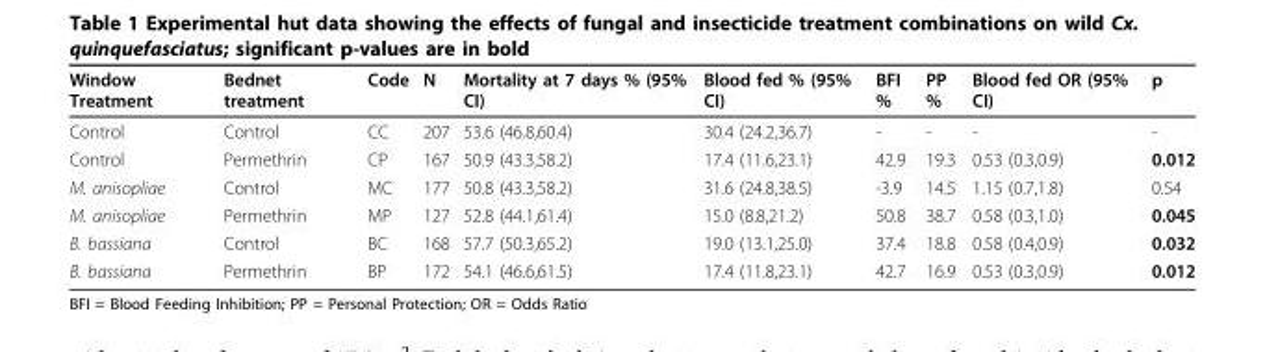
<table><thead><tr><td>Window Treatment</td><td>Bednet treatment</td><td>Code</td><td>N</td><td>Mortality at 7 days % (95% CI)</td><td>Blood fed % (95% CI)</td><td>BFI %</td><td>PP %</td><td>Blood fed OR (95% CI)</td><td>p</td></tr></thead><tbody><tr><td>Control</td><td>Control</td><td>CC</td><td>207</td><td>53.6 (46.8,60.4)</td><td>30.4 (24.2,36.7)</td><td>-</td><td>-</td><td>-</td><td>-</td></tr><tr><td>Control</td><td>Permethrin</td><td>CP</td><td>167</td><td>50.9 (43.3,58.2)</td><td>17.4 (11.6,23.1)</td><td>42.9</td><td>19.3</td><td>0.53 (0.3,0.9)</td><td>0.012</td></tr><tr><td>M. anisopliae</td><td>Control</td><td>MC</td><td>177</td><td>50.8 (43.3,58.2)</td><td>31.6 (24.8,38.5)</td><td>-3.9</td><td>14.5</td><td>1.15 (0.7,1.8)</td><td>0.54</td></tr><tr><td>M. anisopliae</td><td>Permethrin</td><td>MP</td><td>127</td><td>52.8 (44.1,61.4)</td><td>15.0 (8.8,21.2)</td><td>50.8</td><td>38.7</td><td>0.58 (0.3,1.0)</td><td>0.045</td></tr><tr><td>B. bassiana</td><td>Control</td><td>BC</td><td>168</td><td>57.7 (50.3,65.2)</td><td>19.0 (13.1,25.0)</td><td>37.4</td><td>18.8</td><td>0.58 (0.4,0.9)</td><td>0.032</td></tr><tr><td>B. bassiana</td><td>Permethrin</td><td>BP</td><td>172</td><td>54.1 (46.6,61.5)</td><td>17.4 (11.8,23.1)</td><td>42.7</td><td>16.9</td><td>0.53 (0.3,0.9)</td><td>0.012</td></tr></tbody></table>